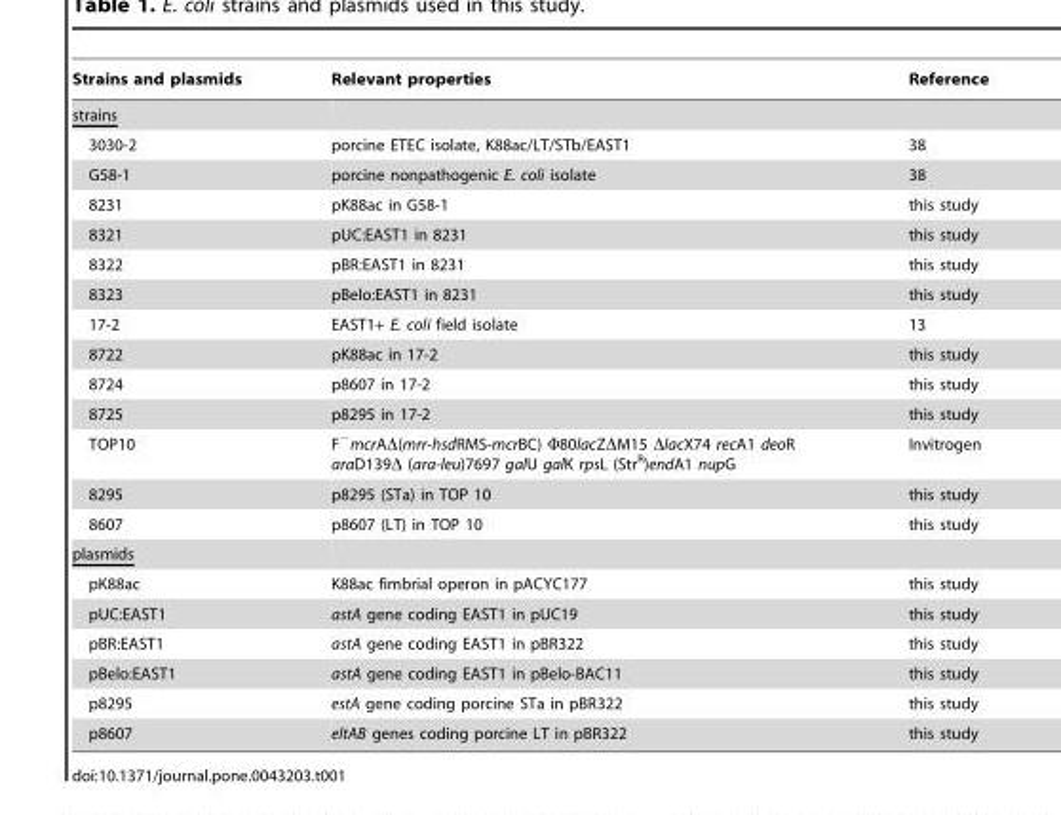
<table><thead><tr><td>Strains and plasmids</td><td>Relevant properties</td><td>Reference</td></tr></thead><tbody><tr><td colspan="3">strains</td></tr><tr><td>3030-2</td><td>porcine ETEC isolate, K88ac/LT/STb/EAST1</td><td>38</td></tr><tr><td>G58-1</td><td>porcine nonpathogenic E. coli isolate</td><td>38</td></tr><tr><td>8231</td><td>pK88ac in G58-1</td><td>this study</td></tr><tr><td>8321</td><td>pUC:EAST1 in 8231</td><td>this study</td></tr><tr><td>8322</td><td>pBR:EAST1 in 8231</td><td>this study</td></tr><tr><td>8323</td><td>pBelo:EAST1 in 8231</td><td>this study</td></tr><tr><td>17-2</td><td>EAST1+ E. coli field isolate</td><td>13</td></tr><tr><td>8722</td><td>pK88ac in 17-2</td><td>this study</td></tr><tr><td>8724</td><td>p8607 in 17-2</td><td>this study</td></tr><tr><td>8725</td><td>p8295 in 17-2</td><td>this study</td></tr><tr><td>TOP10</td><td>F<sup>−</sup>mcrAΔ(mrr-hsdRMS-mcrBC) Φ80lacZΔM15 ΔlacX74 recA1 deoR araD139Δ (ara-leu)7697 galU galK rpsL (Str<sup>R</sup>)endA1 nupG</td><td>Invitrogen</td></tr><tr><td>8295</td><td>p8295 (STa) in TOP 10</td><td>this study</td></tr><tr><td>8607</td><td>p8607 (LT) in TOP 10</td><td>this study</td></tr><tr><td colspan="3">plasmids</td></tr><tr><td>pK88ac</td><td>K88ac fimbrial operon in pACYC177</td><td>this study</td></tr><tr><td>pUC:EAST1</td><td>astA gene coding EAST1 in pUC19</td><td>this study</td></tr><tr><td>pBR:EAST1</td><td>astA gene coding EAST1 in pBR322</td><td>this study</td></tr><tr><td>pBelo:EAST1</td><td>astA gene coding EAST1 in pBelo-BAC11</td><td>this study</td></tr><tr><td>p8295</td><td>estA gene coding porcine STa in pBR322</td><td>this study</td></tr><tr><td>p8607</td><td>eltAB genes coding porcine LT in pBR322</td><td>this study</td></tr></tbody></table>